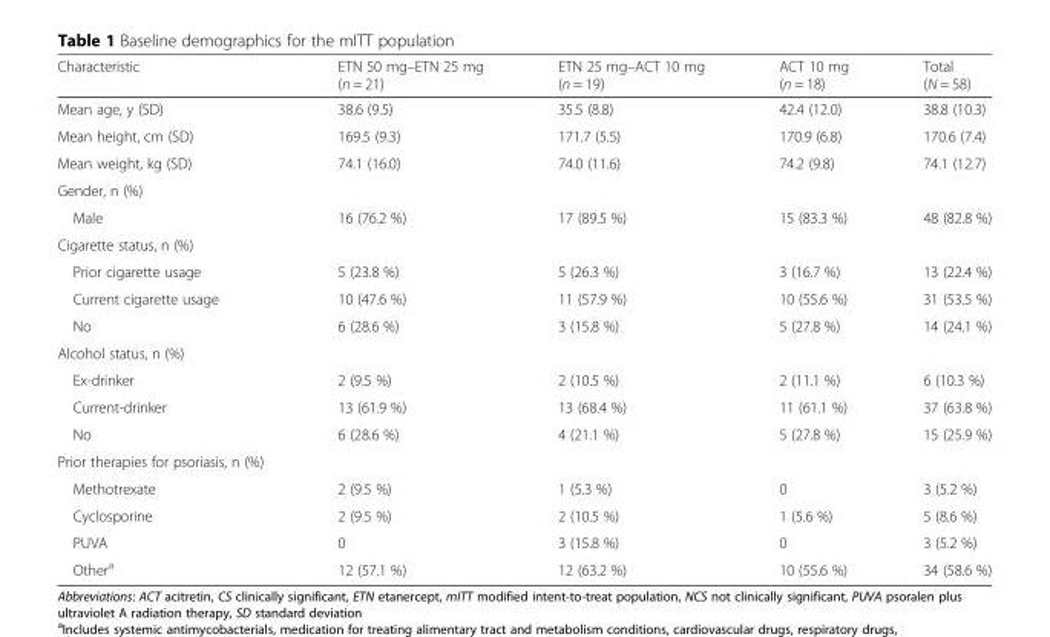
<table><thead><tr><td>Characteristic</td><td>ETN 50 mg–ETN 25 mg (n = 21)</td><td>ETN 25 mg–ACT 10 mg (n = 19)</td><td>ACT 10 mg (n = 18)</td><td>Total (N = 58)</td></tr></thead><tbody><tr><td>Mean age, y (SD)</td><td>38.6 (9.5)</td><td>35.5 (8.8)</td><td>42.4 (12.0)</td><td>38.8 (10.3)</td></tr><tr><td>Mean height, cm (SD)</td><td>169.5 (9.3)</td><td>171.7 (5.5)</td><td>170.9 (6.8)</td><td>170.6 (7.4)</td></tr><tr><td>Mean weight, kg (SD)</td><td>74.1 (16.0)</td><td>74.0 (11.6)</td><td>74.2 (9.8)</td><td>74.1 (12.7)</td></tr><tr><td colspan="5">Gender, n (%)</td></tr><tr><td>Male</td><td>16 (76.2 %)</td><td>17 (89.5 %)</td><td>15 (83.3 %)</td><td>48 (82.8 %)</td></tr><tr><td colspan="5">Cigarette status, n (%)</td></tr><tr><td>Prior cigarette usage</td><td>5 (23.8 %)</td><td>5 (26.3 %)</td><td>3 (16.7 %)</td><td>13 (22.4 %)</td></tr><tr><td>Current cigarette usage</td><td>10 (47.6 %)</td><td>11 (57.9 %)</td><td>10 (55.6 %)</td><td>31 (53.5 %)</td></tr><tr><td>No</td><td>6 (28.6 %)</td><td>3 (15.8 %)</td><td>5 (27.8 %)</td><td>14 (24.1 %)</td></tr><tr><td colspan="5">Alcohol status, n (%)</td></tr><tr><td>Ex-drinker</td><td>2 (9.5 %)</td><td>2 (10.5 %)</td><td>2 (11.1 %)</td><td>6 (10.3 %)</td></tr><tr><td>Current-drinker</td><td>13 (61.9 %)</td><td>13 (68.4 %)</td><td>11 (61.1 %)</td><td>37 (63.8 %)</td></tr><tr><td>No</td><td>6 (28.6 %)</td><td>4 (21.1 %)</td><td>5 (27.8 %)</td><td>15 (25.9 %)</td></tr><tr><td colspan="5">Prior therapies for psoriasis, n (%)</td></tr><tr><td>Methotrexate</td><td>2 (9.5 %)</td><td>1 (5.3 %)</td><td>0</td><td>3 (5.2 %)</td></tr><tr><td>Cyclosporine</td><td>2 (9.5 %)</td><td>2 (10.5 %)</td><td>1 (5.6 %)</td><td>5 (8.6 %)</td></tr><tr><td>PUVA</td><td>0</td><td>3 (15.8 %)</td><td>0</td><td>3 (5.2 %)</td></tr><tr><td>Other<sup>a</sup></td><td>12 (57.1 %)</td><td>12 (63.2 %)</td><td>10 (55.6 %)</td><td>34 (58.6 %)</td></tr></tbody></table>